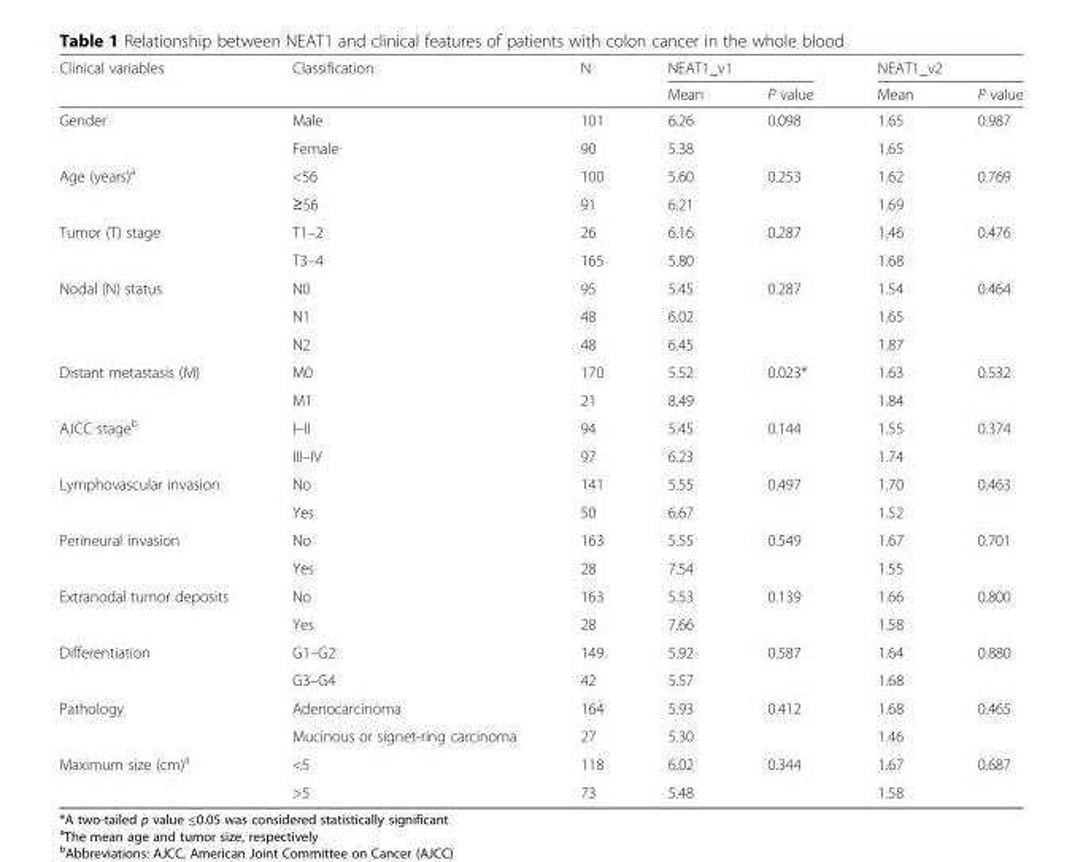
<table><thead><tr><td rowspan="2">Clinical variables</td><td rowspan="2">Classification</td><td rowspan="2">N</td><td colspan="2">NEAT1_v1</td><td colspan="2">NEAT1_v2</td></tr><tr><td>Mean</td><td>P value</td><td>Mean</td><td>P value</td></tr></thead><tbody><tr><td rowspan="2">Gender</td><td>Male</td><td>101</td><td>6.26</td><td>0.098</td><td>1.65</td><td>0.987</td></tr><tr><td>Female</td><td>90</td><td>5.38</td><td></td><td>1.65</td><td></td></tr><tr><td rowspan="2">Age (years)<sup>a</sup></td><td>&lt;56</td><td>100</td><td>5.60</td><td>0.253</td><td>1.62</td><td>0.769</td></tr><tr><td>≥56</td><td>91</td><td>6.21</td><td></td><td>1.69</td><td></td></tr><tr><td rowspan="2">Tumor (T) stage</td><td>T1–2</td><td>26</td><td>6.16</td><td>0.287</td><td>1.46</td><td>0.476</td></tr><tr><td>T3–4</td><td>165</td><td>5.80</td><td></td><td>1.68</td><td></td></tr><tr><td rowspan="3">Nodal (N) status</td><td>N0</td><td>95</td><td>5.45</td><td>0.287</td><td>1.54</td><td>0.464</td></tr><tr><td>N1</td><td>48</td><td>6.02</td><td></td><td>1.65</td><td></td></tr><tr><td>N2</td><td>48</td><td>6.45</td><td></td><td>1.87</td><td></td></tr><tr><td rowspan="2">Distant metastasis (M)</td><td>M0</td><td>170</td><td>5.52</td><td>0.023*</td><td>1.63</td><td>0.532</td></tr><tr><td>M1</td><td>21</td><td>8.49</td><td></td><td>1.84</td><td></td></tr><tr><td rowspan="2">AJCC stage<sup>b</sup></td><td>I–II</td><td>94</td><td>5.45</td><td>0.144</td><td>1.55</td><td>0.374</td></tr><tr><td>III–IV</td><td>97</td><td>6.23</td><td></td><td>1.74</td><td></td></tr><tr><td rowspan="2">Lymphovascular invasion</td><td>No</td><td>141</td><td>5.55</td><td>0.497</td><td>1.70</td><td>0.463</td></tr><tr><td>Yes</td><td>50</td><td>6.67</td><td></td><td>1.52</td><td></td></tr><tr><td rowspan="2">Perineural invasion</td><td>No</td><td>163</td><td>5.55</td><td>0.549</td><td>1.67</td><td>0.701</td></tr><tr><td>Yes</td><td>28</td><td>7.54</td><td></td><td>1.55</td><td></td></tr><tr><td rowspan="2">Extranodal tumor deposits</td><td>No</td><td>163</td><td>5.53</td><td>0.139</td><td>1.66</td><td>0.800</td></tr><tr><td>Yes</td><td>28</td><td>7.66</td><td></td><td>1.58</td><td></td></tr><tr><td rowspan="2">Differentiation</td><td>G1–G2</td><td>149</td><td>5.92</td><td>0.587</td><td>1.64</td><td>0.880</td></tr><tr><td>G3–G4</td><td>42</td><td>5.57</td><td></td><td>1.68</td><td></td></tr><tr><td rowspan="2">Pathology</td><td>Adenocarcinoma</td><td>164</td><td>5.93</td><td>0.412</td><td>1.68</td><td>0.465</td></tr><tr><td>Mucinous or signet-ring carcinoma</td><td>27</td><td>5.30</td><td></td><td>1.46</td><td></td></tr><tr><td rowspan="2">Maximum size (cm)<sup>a</sup></td><td>&lt;5</td><td>118</td><td>6.02</td><td>0.344</td><td>1.67</td><td>0.687</td></tr><tr><td>&gt;5</td><td>73</td><td>5.48</td><td></td><td>1.58</td><td></td></tr></tbody></table>